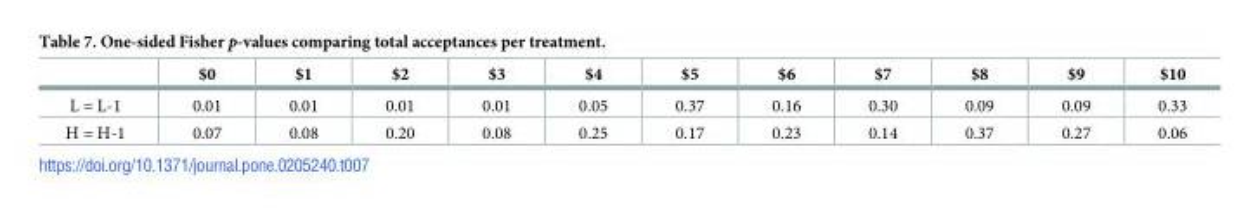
<table><thead><tr><td></td><td>$0</td><td>$1</td><td>$2</td><td>$3</td><td>$4</td><td>$5</td><td>$6</td><td>$7</td><td>$8</td><td>$9</td><td>$10</td></tr></thead><tbody><tr><td>L = L-1</td><td>0.01</td><td>0.01</td><td>0.01</td><td>0.01</td><td>0.05</td><td>0.37</td><td>0.16</td><td>0.30</td><td>0.09</td><td>0.09</td><td>0.33</td></tr><tr><td>H = H-1</td><td>0.07</td><td>0.08</td><td>0.20</td><td>0.08</td><td>0.25</td><td>0.17</td><td>0.23</td><td>0.14</td><td>0.37</td><td>0.27</td><td>0.06</td></tr></tbody></table>